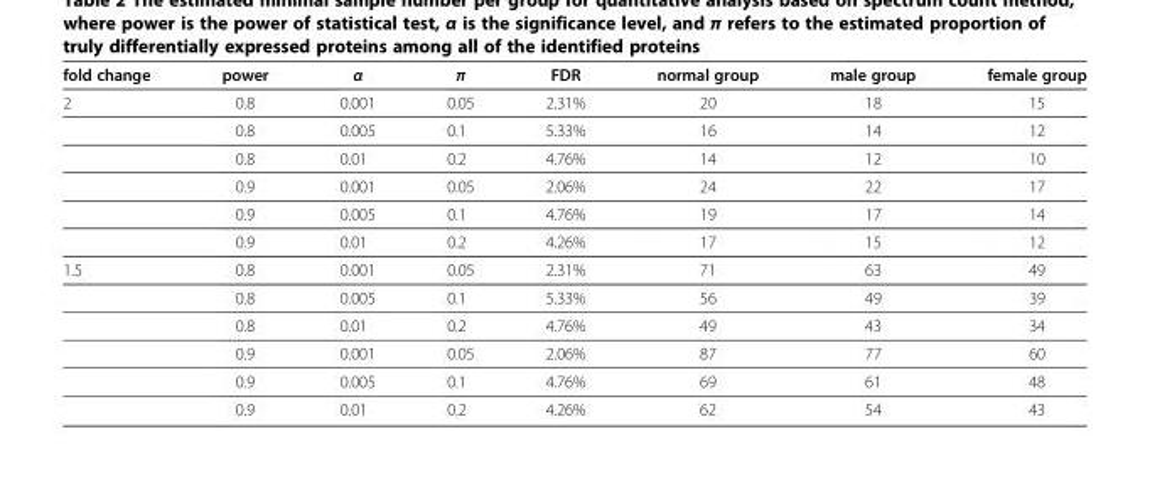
<table><thead><tr><td>fold change</td><td>power</td><td>α</td><td>π</td><td>FDR</td><td>normal group</td><td>male group</td><td>female group</td></tr></thead><tbody><tr><td rowspan="6">2</td><td>0.8</td><td>0.001</td><td>0.05</td><td>2.31%</td><td>20</td><td>18</td><td>15</td></tr><tr><td>0.8</td><td>0.005</td><td>0.1</td><td>5.33%</td><td>16</td><td>14</td><td>12</td></tr><tr><td>0.8</td><td>0.01</td><td>0.2</td><td>4.76%</td><td>14</td><td>12</td><td>10</td></tr><tr><td>0.9</td><td>0.001</td><td>0.05</td><td>2.06%</td><td>24</td><td>22</td><td>17</td></tr><tr><td>0.9</td><td>0.005</td><td>0.1</td><td>4.76%</td><td>19</td><td>17</td><td>14</td></tr><tr><td>0.9</td><td>0.01</td><td>0.2</td><td>4.26%</td><td>17</td><td>15</td><td>12</td></tr><tr><td rowspan="6">1.5</td><td>0.8</td><td>0.001</td><td>0.05</td><td>2.31%</td><td>71</td><td>63</td><td>49</td></tr><tr><td>0.8</td><td>0.005</td><td>0.1</td><td>5.33%</td><td>56</td><td>49</td><td>39</td></tr><tr><td>0.8</td><td>0.01</td><td>0.2</td><td>4.76%</td><td>49</td><td>43</td><td>34</td></tr><tr><td>0.9</td><td>0.001</td><td>0.05</td><td>2.06%</td><td>87</td><td>77</td><td>60</td></tr><tr><td>0.9</td><td>0.005</td><td>0.1</td><td>4.76%</td><td>69</td><td>61</td><td>48</td></tr><tr><td>0.9</td><td>0.01</td><td>0.2</td><td>4.26%</td><td>62</td><td>54</td><td>43</td></tr></tbody></table>